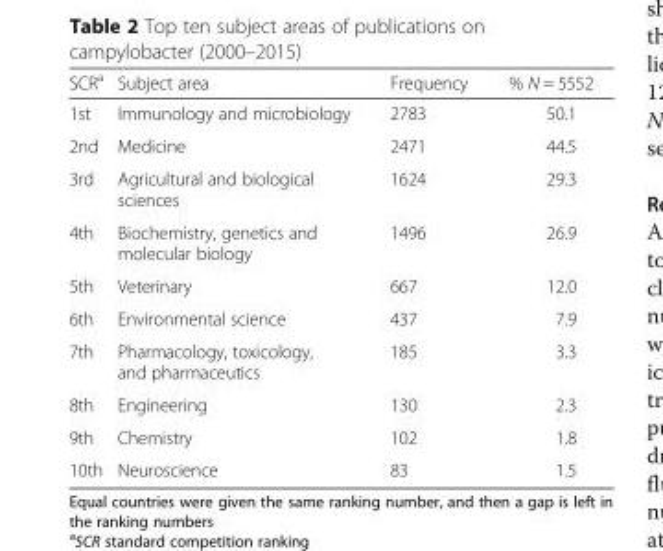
<table><thead><tr><td>SCR<sup>a</sup></td><td>Subject area</td><td>Frequency</td><td>% N = 5552</td></tr></thead><tbody><tr><td>1st</td><td>Immunology and microbiology</td><td>2783</td><td>50.1</td></tr><tr><td>2nd</td><td>Medicine</td><td>2471</td><td>44.5</td></tr><tr><td>3rd</td><td>Agricultural and biological sciences</td><td>1624</td><td>29.3</td></tr><tr><td>4th</td><td>Biochemistry, genetics and molecular biology</td><td>1496</td><td>26.9</td></tr><tr><td>5th</td><td>Veterinary</td><td>667</td><td>12.0</td></tr><tr><td>6th</td><td>Environmental science</td><td>437</td><td>7.9</td></tr><tr><td>7th</td><td>Pharmacology, toxicology, and pharmaceutics</td><td>185</td><td>3.3</td></tr><tr><td>8th</td><td>Engineering</td><td>130</td><td>2.3</td></tr><tr><td>9th</td><td>Chemistry</td><td>102</td><td>1.8</td></tr><tr><td>10th</td><td>Neuroscience</td><td>83</td><td>1.5</td></tr></tbody></table>